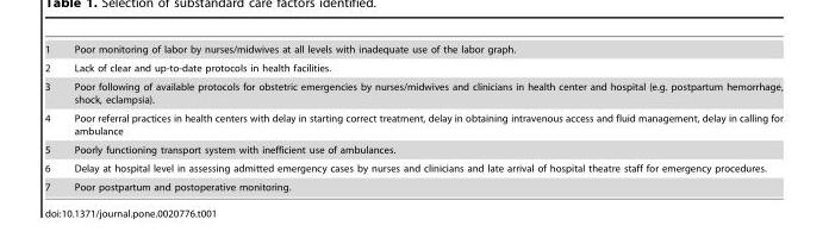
<table><tbody><tr><td>1</td><td>Poor monitoring of labor by nurses/midwives at all levels with inadequate use of the labor graph.</td></tr><tr><td>2</td><td>Lack of clear and up-to-date protocols in health facilities.</td></tr><tr><td>3</td><td>Poor following of available protocols for obstetric emergencies by nurses/midwives and clinicians in health center and hospital (e.g. postpartum hemorrhage, shock, eclampsia).</td></tr><tr><td>4</td><td>Poor referral practices in health centers with delay in starting correct treatment, delay in obtaining intravenous access and fluid management, delay in calling for ambulance</td></tr><tr><td>5</td><td>Poorly functioning transport system with inefficient use of ambulances.</td></tr><tr><td>6</td><td>Delay at hospital level in assessing admitted emergency cases by nurses and clinicians and late arrival of hospital theatre staff for emergency procedures.</td></tr><tr><td>7</td><td>Poor postpartum and postoperative monitoring.</td></tr></tbody></table>